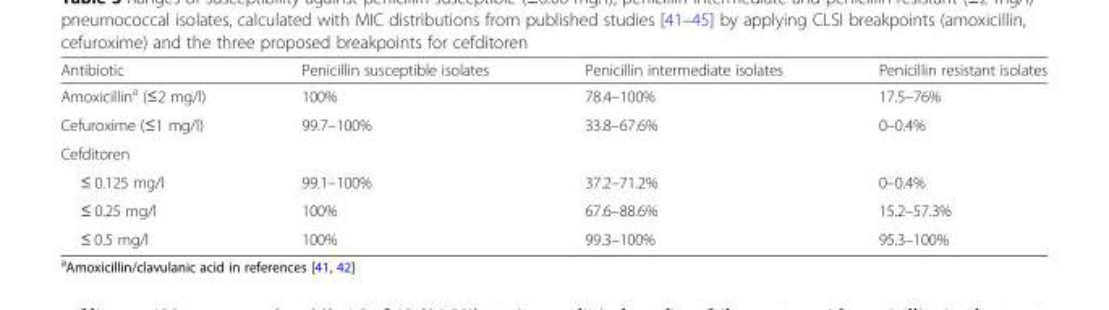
<table><thead><tr><td>Antibiotic</td><td>Penicillin susceptible isolates</td><td>Penicillin intermediate isolates</td><td>Penicillin resistant isolates</td></tr></thead><tbody><tr><td>Amoxicillin<sup>a</sup> (≤2 mg/l)</td><td>100%</td><td>78.4–100%</td><td>17.5–76%</td></tr><tr><td>Cefuroxime (≤1 mg/l)</td><td>99.7–100%</td><td>33.8–67.6%</td><td>0–0.4%</td></tr><tr><td colspan="4">Cefditoren</td></tr><tr><td>≤ 0.125 mg/l</td><td>99.1–100%</td><td>37.2–71.2%</td><td>0–0.4%</td></tr><tr><td>≤ 0.25 mg/l</td><td>100%</td><td>67.6–88.6%</td><td>15.2–57.3%</td></tr><tr><td>≤ 0.5 mg/l</td><td>100%</td><td>99.3–100%</td><td>95.3–100%</td></tr></tbody></table>